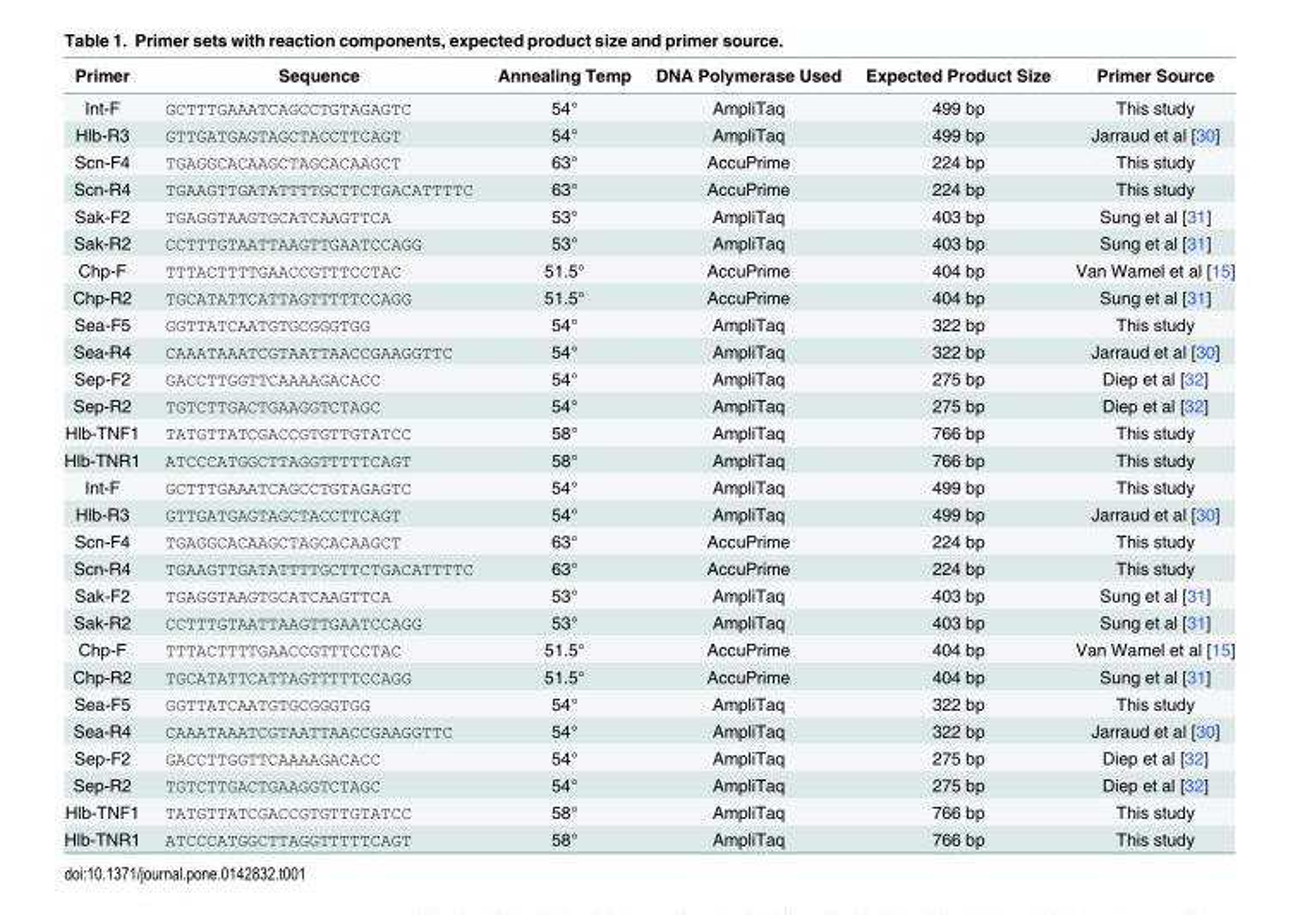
<table><thead><tr><td>Primer</td><td>Sequence</td><td>Annealing Temp</td><td>DNA Polymerase Used</td><td>Expected Product Size</td><td>Primer Source</td></tr></thead><tbody><tr><td>Int-F</td><td>GCTTTGAAATCAGCCTGTAGAGTC</td><td>54°</td><td>AmpliTaq</td><td>499 bp</td><td>This study</td></tr><tr><td>Hlb-R3</td><td>GTTGATGAGTAGCTACCTTCAGT</td><td>54°</td><td>AmpliTaq</td><td>499 bp</td><td>Jarraud et al [30]</td></tr><tr><td>Scn-F4</td><td>TGAGGCACAAGCTAGCACAAGCT</td><td>63°</td><td>AccuPrime</td><td>224 bp</td><td>This study</td></tr><tr><td>Scn-R4</td><td>TGAAGTTGATATTTTGCTTCTGACATTTTC</td><td>63°</td><td>AccuPrime</td><td>224 bp</td><td>This study</td></tr><tr><td>Sak-F2</td><td>TGAGGTAAGTGCATCAAGTTCA</td><td>53°</td><td>AmpliTaq</td><td>403 bp</td><td>Sung et al [31]</td></tr><tr><td>Sak-R2</td><td>CCTTTGTAATTAAGTTGAATCCAGG</td><td>53°</td><td>AmpliTaq</td><td>403 bp</td><td>Sung et al [31]</td></tr><tr><td>Chp-F</td><td>TTTACTTTTGAACCGTTTCCTAC</td><td>51.5°</td><td>AccuPrime</td><td>404 bp</td><td>Van Wamel et al [15]</td></tr><tr><td>Chp-R2</td><td>TGCATATTCATTAGTTTTTCCAGG</td><td>51.5°</td><td>AccuPrime</td><td>404 bp</td><td>Sung et al [31]</td></tr><tr><td>Sea-F5</td><td>GGTTATCAATGTGCGGGTGG</td><td>54°</td><td>AmpliTaq</td><td>322 bp</td><td>This study</td></tr><tr><td>Sea-R4</td><td>CAAATAAATCGTAATTAACCGAAGGTTC</td><td>54°</td><td>AmpliTaq</td><td>322 bp</td><td>Jarraud et al [30]</td></tr><tr><td>Sep-F2</td><td>GACCTTGGTTCAAAAGACACC</td><td>54°</td><td>AmpliTaq</td><td>275 bp</td><td>Diep et al [32]</td></tr><tr><td>Sep-R2</td><td>TGTCTTGACTGAAGGTCTAGC</td><td>54°</td><td>AmpliTaq</td><td>275 bp</td><td>Diep et al [32]</td></tr><tr><td>Hlb-TNF1</td><td>TATGTTATCGACCGTGTTGTATCC</td><td>58°</td><td>AmpliTaq</td><td>766 bp</td><td>This study</td></tr><tr><td>Hlb-TNR1</td><td>ATCCCATGGCTTAGGTTTTTCAGT</td><td>58°</td><td>AmpliTaq</td><td>766 bp</td><td>This study</td></tr><tr><td>Int-F</td><td>GCTTTGAAATCAGCCTGTAGAGTC</td><td>54°</td><td>AmpliTaq</td><td>499 bp</td><td>This study</td></tr><tr><td>Hlb-R3</td><td>GTTGATGAGTAGCTACCTTCAGT</td><td>54°</td><td>AmpliTaq</td><td>499 bp</td><td>Jarraud et al [30]</td></tr><tr><td>Scn-F4</td><td>TGAGGCACAAGCTAGCACAAGCT</td><td>63°</td><td>AccuPrime</td><td>224 bp</td><td>This study</td></tr><tr><td>Scn-R4</td><td>TGAAGTTGATATTTTGCTTCTGACATTTTC</td><td>63°</td><td>AccuPrime</td><td>224 bp</td><td>This study</td></tr><tr><td>Sak-F2</td><td>TGAGGTAAGTGCATCAAGTTCA</td><td>53°</td><td>AmpliTaq</td><td>403 bp</td><td>Sung et al [31]</td></tr><tr><td>Sak-R2</td><td>CCTTTGTAATTAAGTTGAATCCAGG</td><td>53°</td><td>AmpliTaq</td><td>403 bp</td><td>Sung et al [31]</td></tr><tr><td>Chp-F</td><td>TTTACTTTTGAACCGTTTCCTAC</td><td>51.5°</td><td>AccuPrime</td><td>404 bp</td><td>Van Wamel et al [15]</td></tr><tr><td>Chp-R2</td><td>TGCATATTCATTAGTTTTTCCAGG</td><td>51.5°</td><td>AccuPrime</td><td>404 bp</td><td>Sung et al [31]</td></tr><tr><td>Sea-F5</td><td>GGTTATCAATGTGCGGGTGG</td><td>54°</td><td>AmpliTaq</td><td>322 bp</td><td>This study</td></tr><tr><td>Sea-R4</td><td>CAAATAAATCGTAATTAACCGAAGGTTC</td><td>54°</td><td>AmpliTaq</td><td>322 bp</td><td>Jarraud et al [30]</td></tr><tr><td>Sep-F2</td><td>GACCTTGGTTCAAAAGACACC</td><td>54°</td><td>AmpliTaq</td><td>275 bp</td><td>Diep et al [32]</td></tr><tr><td>Sep-R2</td><td>TGTCTTGACTGAAGGTCTAGC</td><td>54°</td><td>AmpliTaq</td><td>275 bp</td><td>Diep et al [32]</td></tr><tr><td>Hlb-TNF1</td><td>TATGTTATCGACCGTGTTGTATCC</td><td>58°</td><td>AmpliTaq</td><td>766 bp</td><td>This study</td></tr><tr><td>Hlb-TNR1</td><td>ATCCCATGGCTTAGGTTTTTCAGT</td><td>58°</td><td>AmpliTaq</td><td>766 bp</td><td>This study</td></tr></tbody></table>